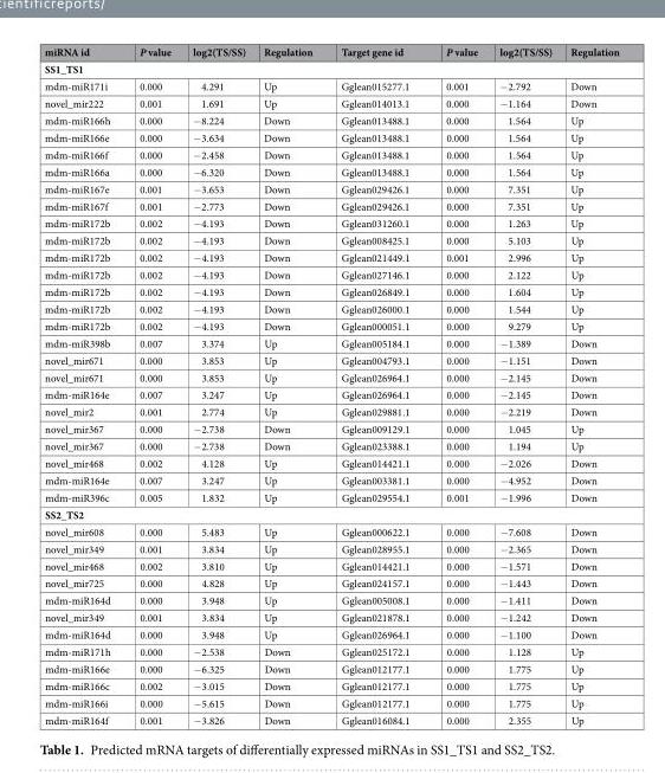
<table><thead><tr><td>miRNA id</td><td>P value</td><td>log2(TS/SS)</td><td>Regulation</td><td>Target gene id</td><td>P value</td><td>log2(TS/SS)</td><td>Regulation</td></tr></thead><tbody><tr><td colspan="8">SS1_TS1</td></tr><tr><td>mdm-miR171i</td><td>0.000</td><td>4.291</td><td>Up</td><td>Gglean015277.1</td><td>0.001</td><td>−2.792</td><td>Down</td></tr><tr><td>novel_mir222</td><td>0.001</td><td>1.691</td><td>Up</td><td>Gglean014013.1</td><td>0.000</td><td>−1.164</td><td>Down</td></tr><tr><td>mdm-miR166h</td><td>0.000</td><td>−8.224</td><td>Down</td><td>Gglean013488.1</td><td>0.000</td><td>1.564</td><td>Up</td></tr><tr><td>mdm-miR166e</td><td>0.000</td><td>−3.634</td><td>Down</td><td>Gglean013488.1</td><td>0.000</td><td>1.564</td><td>Up</td></tr><tr><td>mdm-miR166f</td><td>0.000</td><td>−2.458</td><td>Down</td><td>Gglean013488.1</td><td>0.000</td><td>1.564</td><td>Up</td></tr><tr><td>mdm-miR166a</td><td>0.000</td><td>−6.320</td><td>Down</td><td>Gglean013488.1</td><td>0.000</td><td>1.564</td><td>Up</td></tr><tr><td>mdm-miR167e</td><td>0.001</td><td>−3.653</td><td>Down</td><td>Gglean029426.1</td><td>0.000</td><td>7.351</td><td>Up</td></tr><tr><td>mdm-miR167f</td><td>0.001</td><td>−2.773</td><td>Down</td><td>Gglean029426.1</td><td>0.000</td><td>7.351</td><td>Up</td></tr><tr><td>mdm-miR172b</td><td>0.002</td><td>−4.193</td><td>Down</td><td>Gglean031260.1</td><td>0.000</td><td>1.263</td><td>Up</td></tr><tr><td>mdm-miR172b</td><td>0.002</td><td>−4.193</td><td>Down</td><td>Gglean008425.1</td><td>0.000</td><td>5.103</td><td>Up</td></tr><tr><td>mdm-miR172b</td><td>0.002</td><td>−4.193</td><td>Down</td><td>Gglean021449.1</td><td>0.001</td><td>2.996</td><td>Up</td></tr><tr><td>mdm-miR172b</td><td>0.002</td><td>−4.193</td><td>Down</td><td>Gglean027146.1</td><td>0.000</td><td>2.122</td><td>Up</td></tr><tr><td>mdm-miR172b</td><td>0.002</td><td>−4.193</td><td>Down</td><td>Gglean026849.1</td><td>0.000</td><td>1.604</td><td>Up</td></tr><tr><td>mdm-miR172b</td><td>0.002</td><td>−4.193</td><td>Down</td><td>Gglean026000.1</td><td>0.000</td><td>1.544</td><td>Up</td></tr><tr><td>mdm-miR172b</td><td>0.002</td><td>−4.193</td><td>Down</td><td>Gglean000051.1</td><td>0.000</td><td>9.279</td><td>Up</td></tr><tr><td>mdm-miR398b</td><td>0.007</td><td>3.374</td><td>Up</td><td>Gglean005184.1</td><td>0.000</td><td>−1.389</td><td>Down</td></tr><tr><td>novel_mir671</td><td>0.000</td><td>3.853</td><td>Up</td><td>Gglean004793.1</td><td>0.000</td><td>−1.151</td><td>Down</td></tr><tr><td>novel_mir671</td><td>0.000</td><td>3.853</td><td>Up</td><td>Gglean026964.1</td><td>0.000</td><td>−2.145</td><td>Down</td></tr><tr><td>mdm-miR164e</td><td>0.007</td><td>3.247</td><td>Up</td><td>Gglean026964.1</td><td>0.000</td><td>−2.145</td><td>Down</td></tr><tr><td>novel_mir2</td><td>0.001</td><td>2.774</td><td>Up</td><td>Gglean029881.1</td><td>0.000</td><td>−2.219</td><td>Down</td></tr><tr><td>novel_mir367</td><td>0.000</td><td>−2.738</td><td>Down</td><td>Gglean009129.1</td><td>0.000</td><td>1.045</td><td>Up</td></tr><tr><td>novel_mir367</td><td>0.000</td><td>−2.738</td><td>Down</td><td>Gglean023388.1</td><td>0.000</td><td>1.194</td><td>Up</td></tr><tr><td>novel_mir468</td><td>0.002</td><td>4.128</td><td>Up</td><td>Gglean014421.1</td><td>0.000</td><td>−2.026</td><td>Down</td></tr><tr><td>mdm-miR164e</td><td>0.007</td><td>3.247</td><td>Up</td><td>Gglean003381.1</td><td>0.000</td><td>−4.952</td><td>Down</td></tr><tr><td>mdm-miR396c</td><td>0.005</td><td>1.832</td><td>Up</td><td>Gglean029554.1</td><td>0.001</td><td>−1.996</td><td>Down</td></tr><tr><td colspan="8">SS2_TS2</td></tr><tr><td>novel_mir608</td><td>0.000</td><td>5.483</td><td>Up</td><td>Gglean000622.1</td><td>0.000</td><td>−7.608</td><td>Down</td></tr><tr><td>novel_mir349</td><td>0.001</td><td>3.834</td><td>Up</td><td>Gglean028955.1</td><td>0.000</td><td>−2.365</td><td>Down</td></tr><tr><td>novel_mir468</td><td>0.002</td><td>3.810</td><td>Up</td><td>Gglean014421.1</td><td>0.000</td><td>−1.571</td><td>Down</td></tr><tr><td>novel_mir725</td><td>0.000</td><td>4.828</td><td>Up</td><td>Gglean024157.1</td><td>0.000</td><td>−1.443</td><td>Down</td></tr><tr><td>mdm-miR164d</td><td>0.000</td><td>3.948</td><td>Up</td><td>Gglean005008.1</td><td>0.000</td><td>−1.411</td><td>Down</td></tr><tr><td>novel_mir349</td><td>0.001</td><td>3.834</td><td>Up</td><td>Gglean021878.1</td><td>0.000</td><td>−1.242</td><td>Down</td></tr><tr><td>mdm-miR164d</td><td>0.000</td><td>3.948</td><td>Up</td><td>Gglean026964.1</td><td>0.000</td><td>−1.100</td><td>Down</td></tr><tr><td>mdm-miR171h</td><td>0.000</td><td>−2.538</td><td>Down</td><td>Gglean025172.1</td><td>0.000</td><td>1.128</td><td>Up</td></tr><tr><td>mdm-miR166e</td><td>0.000</td><td>−6.325</td><td>Down</td><td>Gglean012177.1</td><td>0.000</td><td>1.775</td><td>Up</td></tr><tr><td>mdm-miR166c</td><td>0.002</td><td>−3.015</td><td>Down</td><td>Gglean012177.1</td><td>0.000</td><td>1.775</td><td>Up</td></tr><tr><td>mdm-miR166i</td><td>0.000</td><td>−5.615</td><td>Down</td><td>Gglean012177.1</td><td>0.000</td><td>1.775</td><td>Up</td></tr><tr><td>mdm-miR164f</td><td>0.001</td><td>−3.826</td><td>Down</td><td>Gglean016084.1</td><td>0.000</td><td>2.355</td><td>Up</td></tr></tbody></table>